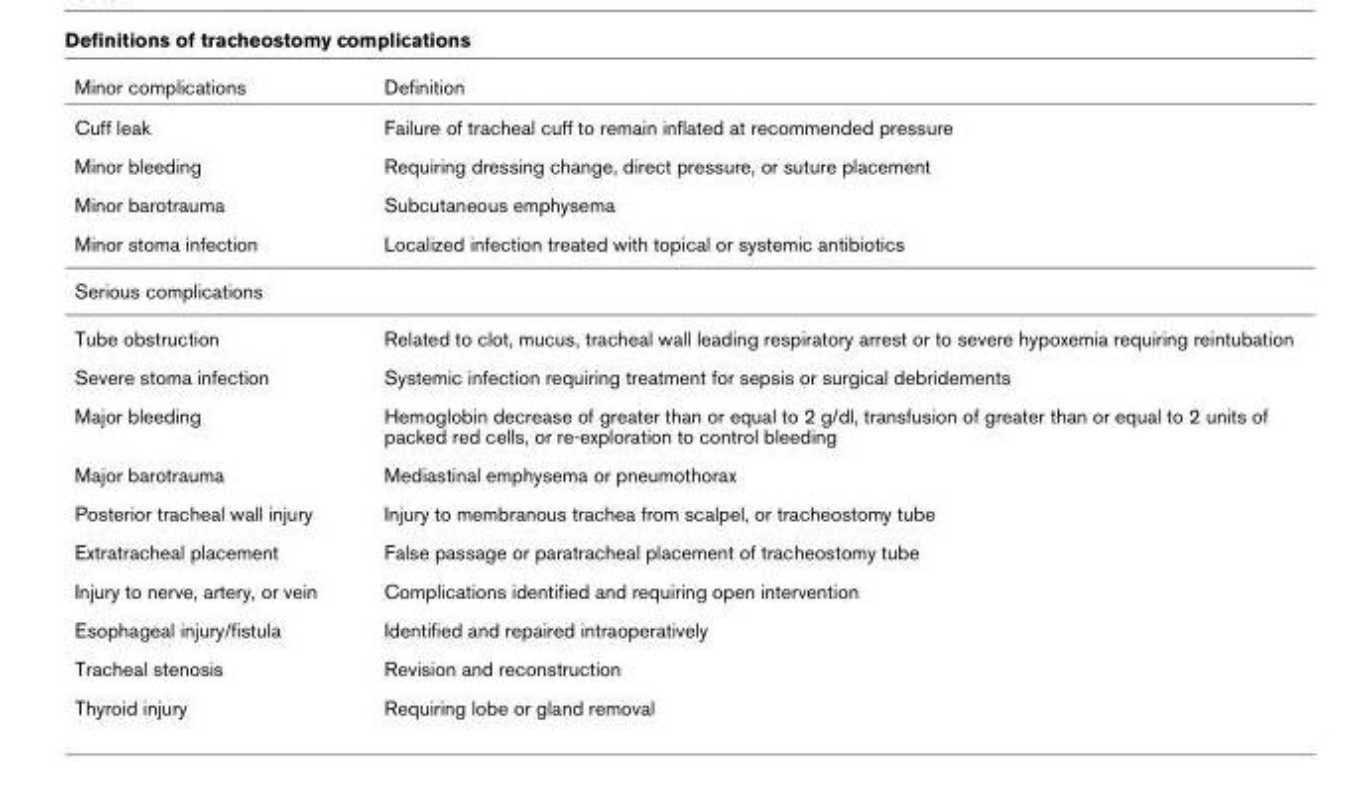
<table><thead><tr><td>Minor complications</td><td>Definition</td></tr></thead><tbody><tr><td>Cuff leak</td><td>Failure of tracheal cuff to remain inflated at recommended pressure</td></tr><tr><td>Minor bleeding</td><td>Requiring dressing change, direct pressure, or suture placement</td></tr><tr><td>Minor barotrauma</td><td>Subcutaneous emphysema</td></tr><tr><td>Minor stoma infection</td><td>Localized infection treated with topical or systemic antibiotics</td></tr><tr><td colspan="2">Serious complications</td></tr><tr><td>Tube obstruction</td><td>Related to clot, mucus, tracheal wall leading respiratory arrest or to severe hypoxemia requiring reintubation</td></tr><tr><td>Severe stoma infection</td><td>Systemic infection requiring treatment for sepsis or surgical debridements</td></tr><tr><td>Major bleeding</td><td>Hemoglobin decrease of greater than or equal to 2 g/dl, transfusion of greater than or equal to 2 units of packed red cells, or re-exploration to control bleeding</td></tr><tr><td>Major barotrauma</td><td>Mediastinal emphysema or pneumothorax</td></tr><tr><td>Posterior tracheal wall injury</td><td>Injury to membranous trachea from scalpel, or tracheostomy tube</td></tr><tr><td>Extratracheal placement</td><td>False passage or paratracheal placement of tracheostomy tube</td></tr><tr><td>Injury to nerve, artery, or vein</td><td>Complications identified and requiring open intervention</td></tr><tr><td>Esophageal injury/fistula</td><td>Identified and repaired intraoperatively</td></tr><tr><td>Tracheal stenosis</td><td>Revision and reconstruction</td></tr><tr><td>Thyroid injury</td><td>Requiring lobe or gland removal</td></tr></tbody></table>